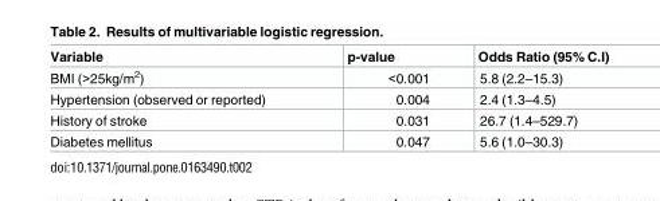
<table><thead><tr><td>Variable</td><td>p-value</td><td>Odds Ratio (95% C.I)</td></tr></thead><tbody><tr><td>BMI (&gt;25kg/m<sup>2</sup>)</td><td>&lt;0.001</td><td>5.8 (2.2–15.3)</td></tr><tr><td>Hypertension (observed or reported)</td><td>0.004</td><td>2.4 (1.3–4.5)</td></tr><tr><td>History of stroke</td><td>0.031</td><td>26.7 (1.4–529.7)</td></tr><tr><td>Diabetes mellitus</td><td>0.047</td><td>5.6 (1.0–30.3)</td></tr></tbody></table>